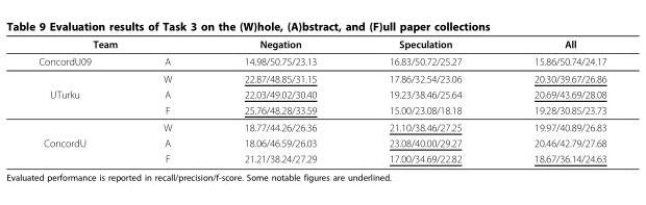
<table><thead><tr><td colspan="2">Team</td><td rowspan="2">Negation 14.98/50.75/23.13</td><td rowspan="2">Speculation 16.83/50.72/25.27</td><td rowspan="2">All 15.86/50.74/24.17</td></tr><tr><td>ConcordU09</td><td>A</td></tr></thead><tbody><tr><td></td><td>W</td><td>22.87/48.85/31.15</td><td>17.86/32.54/23.06</td><td>20.30/39.67/26.86</td></tr><tr><td rowspan="3">UTurku</td><td>A</td><td>22.03/49.02/30.40</td><td>19.23/38.46/25.64</td><td>20.69/43.69/28.08</td></tr><tr><td>F</td><td>25.76/48.28/33.59</td><td>15.00/23.08/18.18</td><td>19.28/30.85/23.73</td></tr><tr><td>W</td><td>18.77/44.26/26.36</td><td>21.10/38.46/27.25</td><td>19.97/40.89/26.83</td></tr><tr><td rowspan="2">ConcordU</td><td>A</td><td>18.06/46.59/26.03</td><td>23.08/40.00/29.27</td><td>20.46/42.79/27.68</td></tr><tr><td>F</td><td>21.21/38.24/27.29</td><td>17.00/34.69/22.82</td><td>18.67/36.14/24.63</td></tr></tbody></table>